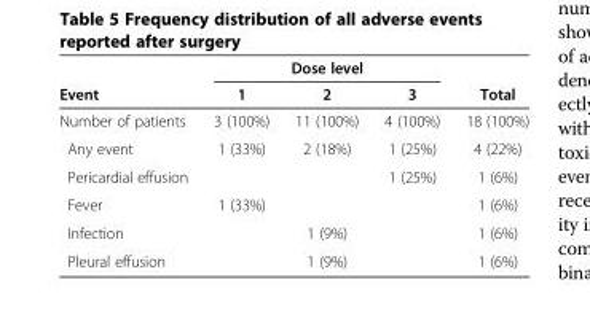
<table><thead><tr><td rowspan="2">Event</td><td colspan="3">Dose level</td><td rowspan="2">Total</td></tr><tr><td>1</td><td>2</td><td>3</td></tr></thead><tbody><tr><td>Number of patients</td><td>3 (100%)</td><td>11 (100%)</td><td>4 (100%)</td><td>18 (100%)</td></tr><tr><td>Any event</td><td>1 (33%)</td><td>2 (18%)</td><td>1 (25%)</td><td>4 (22%)</td></tr><tr><td>Pericardial effusion</td><td></td><td></td><td>1 (25%)</td><td>1 (6%)</td></tr><tr><td>Fever</td><td>1 (33%)</td><td></td><td></td><td>1 (6%)</td></tr><tr><td>Infection</td><td></td><td>1 (9%)</td><td></td><td>1 (6%)</td></tr><tr><td>Pleural effusion</td><td></td><td>1 (9%)</td><td></td><td>1 (6%)</td></tr></tbody></table>